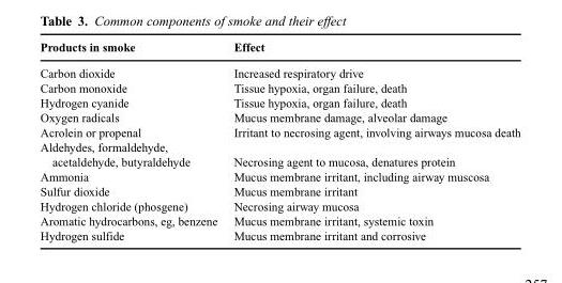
<table><thead><tr><td>Products in smoke</td><td>Effect</td></tr></thead><tbody><tr><td>Carbon dioxide</td><td>Increased respiratory drive</td></tr><tr><td>Carbon monoxide</td><td>Tissue hypoxia, organ failure, death</td></tr><tr><td>Hydrogen cyanide</td><td>Tissue hypoxia, organ failure, death</td></tr><tr><td>Oxygen radicals</td><td>Mucus membrane damage, alveolar damage</td></tr><tr><td>Acrolein or propenal</td><td>Irritant to necrosing agent, involving airways mucosa death</td></tr><tr><td>Aldehydes, formaldehyde, acetaldehyde, butyraldehyde</td><td>Necrosing agent to mucosa, denatures protein</td></tr><tr><td>Ammonia</td><td>Mucus membrane irritant, including airway muscosa</td></tr><tr><td>Sulfur dioxide</td><td>Mucus membrane irritant</td></tr><tr><td>Hydrogen chloride (phosgene)</td><td>Necrosing airway mucosa</td></tr><tr><td>Aromatic hydrocarbons, eg, benzene</td><td>Mucus membrane irritant, systemic toxin</td></tr><tr><td>Hydrogen sulfide</td><td>Mucus membrane irritant and corrosive</td></tr></tbody></table>